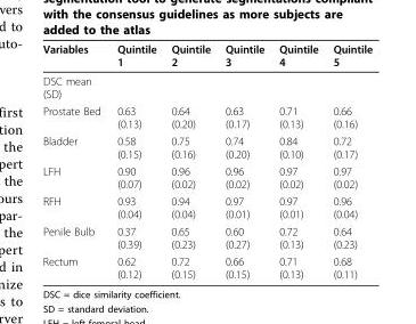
<table><thead><tr><td>Variables</td><td>Quintile 1</td><td>Quintile 2</td><td>Quintile 3</td><td>Quintile 4</td><td>Quintile 5</td></tr></thead><tbody><tr><td colspan="6">DSC mean (SD)</td></tr><tr><td>Prostate Bed</td><td>0.63 (0.13)</td><td>0.64 (0.20)</td><td>0.63 (0.17)</td><td>0.71 (0.13)</td><td>0.66 (0.16)</td></tr><tr><td>Bladder</td><td>0.58 (0.15)</td><td>0.75 (0.16)</td><td>0.74 (0.20)</td><td>0.84 (0.10)</td><td>0.72 (0.17)</td></tr><tr><td>LFH</td><td>0.90 (0.07)</td><td>0.96 (0.02)</td><td>0.96 (0.02)</td><td>0.97 (0.02)</td><td>0.97 (0.02)</td></tr><tr><td>RFH</td><td>0.93 (0.04)</td><td>0.94 (0.04)</td><td>0.97 (0.01)</td><td>0.97 (0.01)</td><td>0.96 (0.04)</td></tr><tr><td>Penile Bulb</td><td>0.37 (0.39)</td><td>0.65 (0.23)</td><td>0.60 (0.27)</td><td>0.72 (0.13)</td><td>0.64 (0.23)</td></tr><tr><td>Rectum</td><td>0.62 (0.12)</td><td>0.72 (0.15)</td><td>0.66 (0.15)</td><td>0.71 (0.13)</td><td>0.68 (0.11)</td></tr></tbody></table>